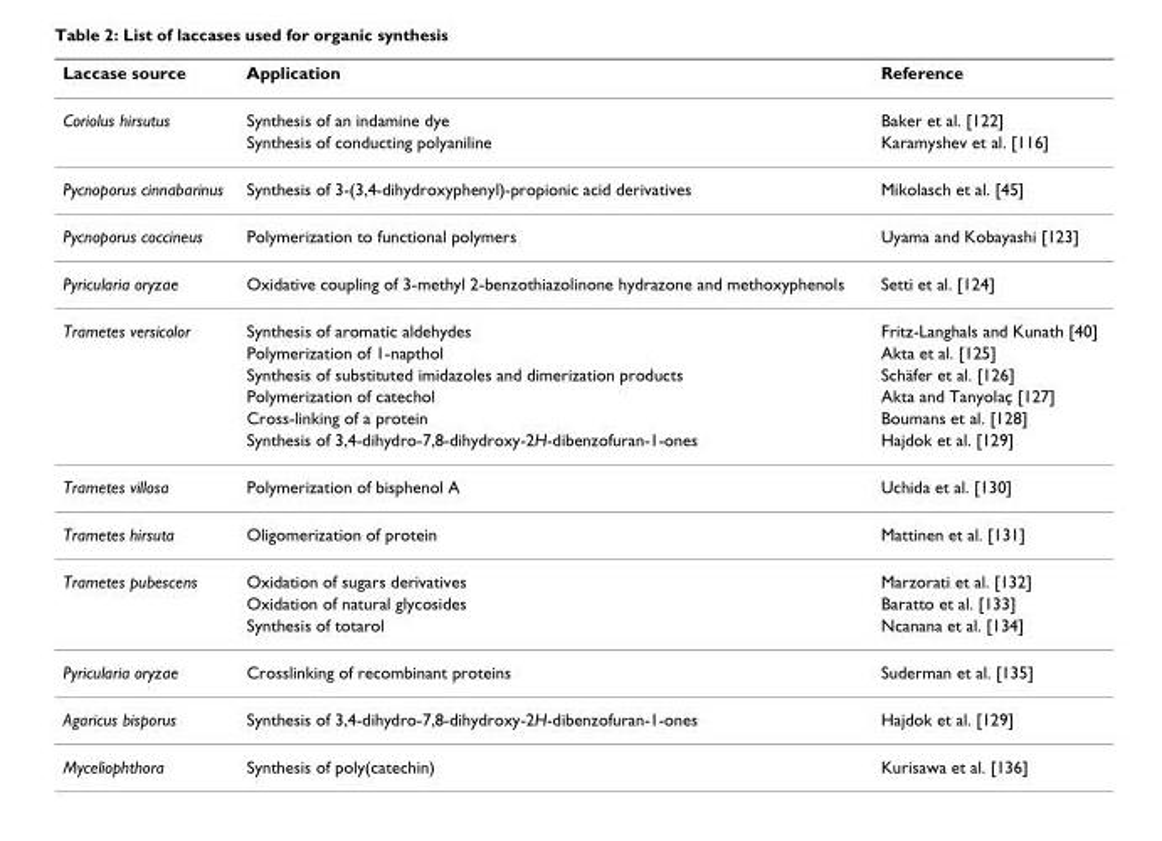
<table><thead><tr><td>Laccase source</td><td>Application</td><td>Reference</td></tr></thead><tbody><tr><td rowspan="2">Coriolus hirsutus</td><td>Synthesis of an indamine dye</td><td>Baker et al. [122]</td></tr><tr><td>Synthesis of conducting polyaniline</td><td>Karamyshev et al. [116]</td></tr><tr><td>Pycnoporus cinnabarinus</td><td>Synthesis of 3-(3,4-dihydroxyphenyl)-propionic acid derivatives</td><td>Mikolasch et al. [45]</td></tr><tr><td>Pycnoporus coccineus</td><td>Polymerization to functional polymers</td><td>Uyama and Kobayashi [123]</td></tr><tr><td>Pyricularia oryzae</td><td>Oxidative coupling of 3-methyl 2-benzothiazolinone hydrazone and methoxyphenols</td><td>Setti et al. [124]</td></tr><tr><td rowspan="6">Trametes versicolor</td><td>Synthesis of aromatic aldehydes</td><td>Fritz-Langhals and Kunath [40]</td></tr><tr><td>Polymerization of 1-napthol</td><td>Akta et al. [125]</td></tr><tr><td>Synthesis of substituted imidazoles and dimerization products</td><td>Schäfer et al. [126]</td></tr><tr><td>Polymerization of catechol</td><td>Akta and Tanyolaç [127]</td></tr><tr><td>Cross-linking of a protein</td><td>Boumans et al. [128]</td></tr><tr><td>Synthesis of 3,4-dihydro-7,8-dihydroxy-2H-dibenzofuran-1-ones</td><td>Hajdok et al. [129]</td></tr><tr><td>Trametes villosa</td><td>Polymerization of bisphenol A</td><td>Uchida et al. [130]</td></tr><tr><td>Trametes hirsuta</td><td>Oligomerization of protein</td><td>Mattinen et al. [131]</td></tr><tr><td rowspan="3">Trametes pubescens</td><td>Oxidation of sugars derivatives</td><td>Marzorati et al. [132]</td></tr><tr><td>Oxidation of natural glycosides</td><td>Baratto et al. [133]</td></tr><tr><td>Synthesis of totarol</td><td>Ncanana et al. [134]</td></tr><tr><td>Pyricularia oryzae</td><td>Crosslinking of recombinant proteins</td><td>Suderman et al. [135]</td></tr><tr><td>Agaricus bisporus</td><td>Synthesis of 3,4-dihydro-7,8-dihydroxy-2H-dibenzofuran-1-ones</td><td>Hajdok et al. [129]</td></tr><tr><td>Myceliophthora</td><td>Synthesis of poly(catechin)</td><td>Kurisawa et al. [136]</td></tr></tbody></table>